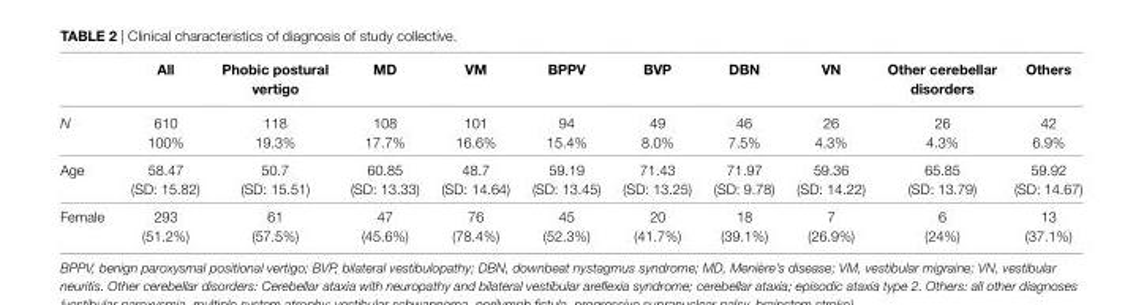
<table><thead><tr><td></td><td>all</td><td>Phobic postural vertigo</td><td>MD</td><td>VM</td><td>BPPV</td><td>BVP</td><td>DBn</td><td>Vn</td><td>Other cerebellar disorders</td><td>Others</td></tr></thead><tbody><tr><td>N</td><td>610 100%</td><td>118 19.3%</td><td>108 17.7%</td><td>101 16.6%</td><td>94 15.4%</td><td>49 8.0%</td><td>46 7.5%</td><td>26 4.3%</td><td>26 4.3%</td><td>42 6.9%</td></tr><tr><td>Age</td><td>58.47 (SD: 15.82)</td><td>50.7 (SD: 15.51)</td><td>60.85 (SD: 13.33)</td><td>48.7 (SD: 14.64)</td><td>59.19 (SD: 13.45)</td><td>71.43 (SD: 13.25)</td><td>71.97 (SD: 9.78)</td><td>59.36 (SD: 14.22)</td><td>65.85 (SD: 13.79)</td><td>59.92 (SD: 14.67)</td></tr><tr><td>Female</td><td>293 (51.2%)</td><td>61 (57.5%)</td><td>47 (45.6%)</td><td>76 (78.4%)</td><td>45 (52.3%)</td><td>20 (41.7%)</td><td>18 (39.1%)</td><td>7 (26.9%)</td><td>6 (24%)</td><td>13 (37.1%)</td></tr></tbody></table>